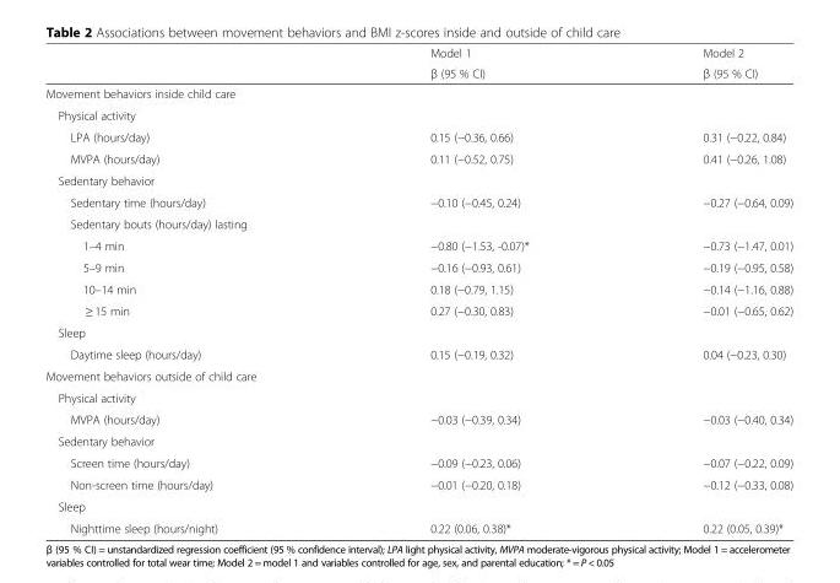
<table><thead><tr><td rowspan="2"></td><td rowspan="2">Model 1 β (95 % CI)</td><td rowspan="2">Model 2 β (95 % CI)</td></tr><tr></tr></thead><tbody><tr><td colspan="3">Movement behaviors inside child care</td></tr><tr><td colspan="3">Physical activity</td></tr><tr><td>LPA (hours/day)</td><td>0.15 (−0.36, 0.66)</td><td>0.31 (−0.22, 0.84)</td></tr><tr><td>MVPA (hours/day)</td><td>0.11 (−0.52, 0.75)</td><td>0.41 (−0.26, 1.08)</td></tr><tr><td colspan="3">Sedentary behavior</td></tr><tr><td>Sedentary time (hours/day)</td><td>−0.10 (−0.45, 0.24)</td><td>−0.27 (−0.64, 0.09)</td></tr><tr><td colspan="3">Sedentary bouts (hours/day) lasting</td></tr><tr><td>1–4 min</td><td>−0.80 (−1.53, -0.07)*</td><td>−0.73 (−1.47, 0.01)</td></tr><tr><td>5–9 min</td><td>−0.16 (−0.93, 0.61)</td><td>−0.19 (−0.95, 0.58)</td></tr><tr><td>10–14 min</td><td>0.18 (−0.79, 1.15)</td><td>−0.14 (−1.16, 0.88)</td></tr><tr><td>≥ 15 min</td><td>0.27 (−0.30, 0.83)</td><td>−0.01 (−0.65, 0.62)</td></tr><tr><td colspan="3">Sleep</td></tr><tr><td>Daytime sleep (hours/day)</td><td>0.15 (−0.19, 0.32)</td><td>0.04 (−0.23, 0.30)</td></tr><tr><td colspan="3">Movement behaviors outside of child care</td></tr><tr><td colspan="3">Physical activity</td></tr><tr><td>MVPA (hours/day)</td><td>−0.03 (−0.39, 0.34)</td><td>−0.03 (−0.40, 0.34)</td></tr><tr><td colspan="3">Sedentary behavior</td></tr><tr><td>Screen time (hours/day)</td><td>−0.09 (−0.23, 0.06)</td><td>−0.07 (−0.22, 0.09)</td></tr><tr><td>Non-screen time (hours/day)</td><td>−0.01 (−0.20, 0.18)</td><td>−0.12 (−0.33, 0.08)</td></tr><tr><td colspan="3">Sleep</td></tr><tr><td>Nighttime sleep (hours/night)</td><td>0.22 (0.06, 0.38)*</td><td>0.22 (0.05, 0.39)*</td></tr></tbody></table>